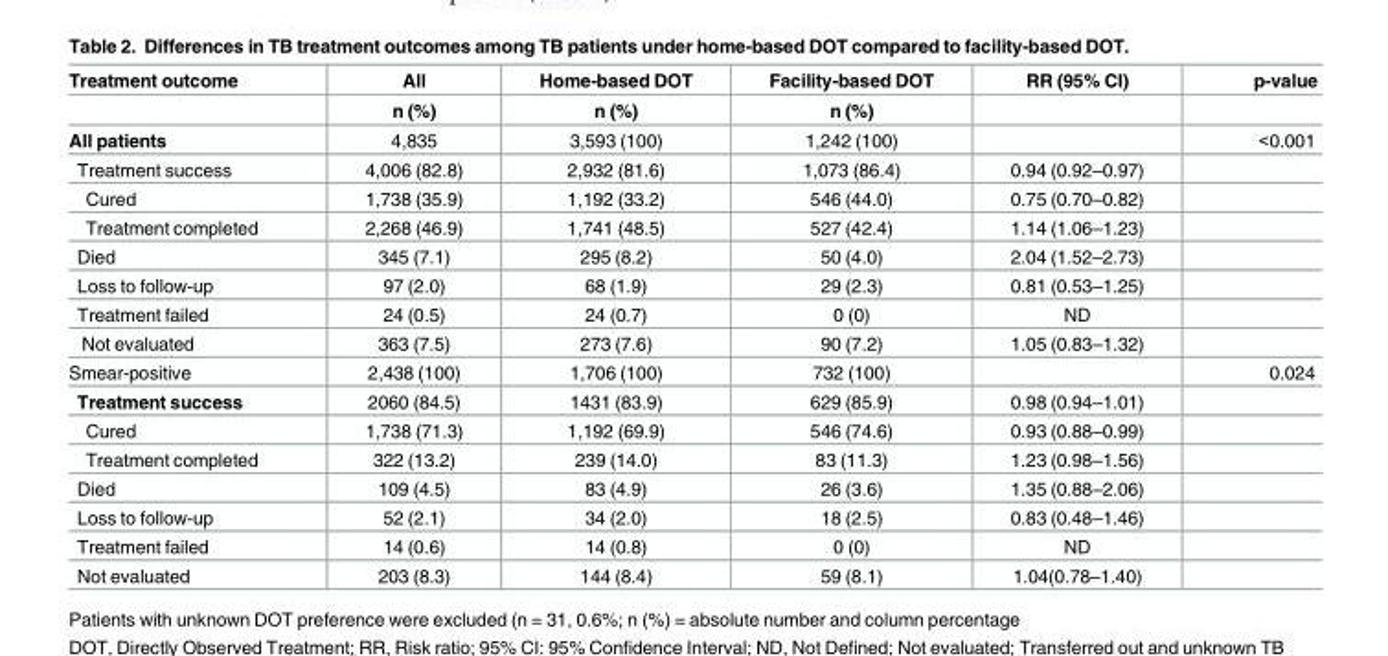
<table><thead><tr><td rowspan="2">Treatment outcome</td><td rowspan="2">All n (%)</td><td rowspan="2">Home-based DOT n (%)</td><td rowspan="2">Facility-based DOT n (%)</td><td rowspan="2">RR (95% CI)</td><td rowspan="2">p-value</td></tr><tr></tr></thead><tbody><tr><td>All patients</td><td>4,835</td><td>3,593 (100)</td><td>1,242 (100)</td><td></td><td>&lt;0.001</td></tr><tr><td>Treatment success</td><td>4,006 (82.8)</td><td>2,932 (81.6)</td><td>1,073 (86.4)</td><td>0.94 (0.92–0.97)</td><td></td></tr><tr><td>Cured</td><td>1,738 (35.9)</td><td>1,192 (33.2)</td><td>546 (44.0)</td><td>0.75 (0.70–0.82)</td><td></td></tr><tr><td>Treatment completed</td><td>2,268 (46.9)</td><td>1,741 (48.5)</td><td>527 (42.4)</td><td>1.14 (1.06–1.23)</td><td></td></tr><tr><td>Died</td><td>345 (7.1)</td><td>295 (8.2)</td><td>50 (4.0)</td><td>2.04 (1.52–2.73)</td><td></td></tr><tr><td>Loss to follow-up</td><td>97 (2.0)</td><td>68 (1.9)</td><td>29 (2.3)</td><td>0.81 (0.53–1.25)</td><td></td></tr><tr><td>Treatment failed</td><td>24 (0.5)</td><td>24 (0.7)</td><td>0 (0)</td><td>ND</td><td></td></tr><tr><td>Not evaluated</td><td>363 (7.5)</td><td>273 (7.6)</td><td>90 (7.2)</td><td>1.05 (0.83–1.32)</td><td></td></tr><tr><td>Smear-positive</td><td>2,438 (100)</td><td>1,706 (100)</td><td>732 (100)</td><td></td><td>0.024</td></tr><tr><td>Treatment success</td><td>2060 (84.5)</td><td>1431 (83.9)</td><td>629 (85.9)</td><td>0.98 (0.94–1.01)</td><td></td></tr><tr><td>Cured</td><td>1,738 (71.3)</td><td>1,192 (69.9)</td><td>546 (74.6)</td><td>0.93 (0.88–0.99)</td><td></td></tr><tr><td>Treatment completed</td><td>322 (13.2)</td><td>239 (14.0)</td><td>83 (11.3)</td><td>1.23 (0.98–1.56)</td><td></td></tr><tr><td>Died</td><td>109 (4.5)</td><td>83 (4.9)</td><td>26 (3.6)</td><td>1.35 (0.88–2.06)</td><td></td></tr><tr><td>Loss to follow-up</td><td>52 (2.1)</td><td>34 (2.0)</td><td>18 (2.5)</td><td>0.83 (0.48–1.46)</td><td></td></tr><tr><td>Treatment failed</td><td>14 (0.6)</td><td>14 (0.8)</td><td>0 (0)</td><td>ND</td><td></td></tr><tr><td>Not evaluated</td><td>203 (8.3)</td><td>144 (8.4)</td><td>59 (8.1)</td><td>1.04(0.78–1.40)</td><td></td></tr></tbody></table>